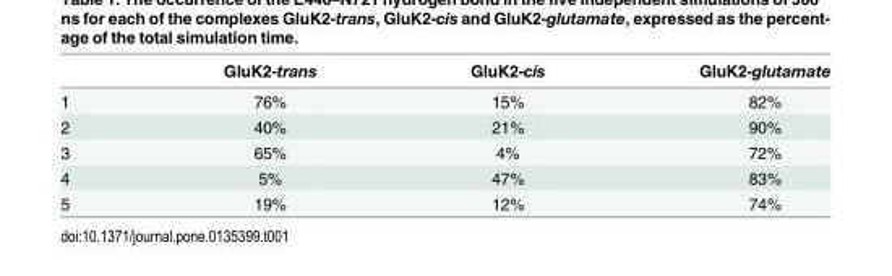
<table><thead><tr><td></td><td>GluK2-trans</td><td>GluK2-cis</td><td>GluK2-glutamate</td></tr></thead><tbody><tr><td>1</td><td>76%</td><td>15%</td><td>82%</td></tr><tr><td>2</td><td>40%</td><td>21%</td><td>90%</td></tr><tr><td>3</td><td>65%</td><td>4%</td><td>72%</td></tr><tr><td>4</td><td>5%</td><td>47%</td><td>83%</td></tr><tr><td>5</td><td>19%</td><td>12%</td><td>74%</td></tr></tbody></table>